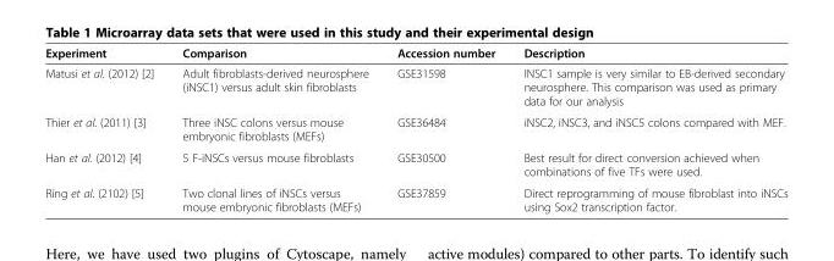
<table><thead><tr><td>Experiment</td><td>Comparison</td><td>Accession number</td><td>Description</td></tr></thead><tbody><tr><td>Matusi et al. (2012) [2]</td><td>Adult fibroblasts-derived neurosphere (iNSC1) versus adult skin fibroblasts</td><td>GSE31598</td><td>INSC1 sample is very similar to EB-derived secondary neurosphere. This comparison was used as primary data for our analysis</td></tr><tr><td>Thier et al. (2011) [3]</td><td>Three iNSC colons versus mouse embryonic fibroblasts (MEFs)</td><td>GSE36484</td><td>iNSC2, iNSC3, and iNSC5 colons compared with MEF.</td></tr><tr><td>Han et al. (2012) [4]</td><td>5 F-iNSCs versus mouse fibroblasts</td><td>GSE30500</td><td>Best result for direct conversion achieved when combinations of five TFs were used.</td></tr><tr><td>Ring et al. (2102) [5]</td><td>Two clonal lines of iNSCs versus mouse embryonic fibroblasts (MEFs)</td><td>GSE37859</td><td>Direct reprogramming of mouse fibroblast into iNSCs using Sox2 transcription factor.</td></tr></tbody></table>